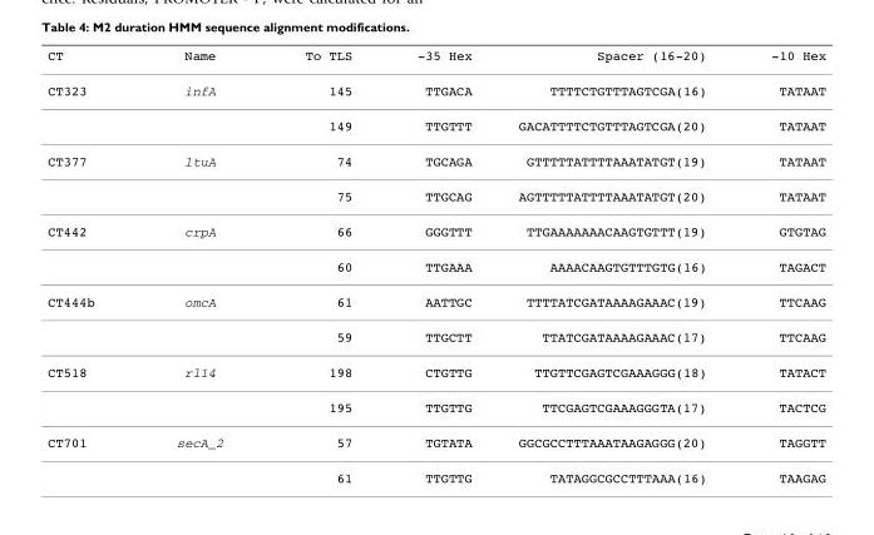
<table><thead><tr><td>CT</td><td>Name</td><td>To TLS</td><td>-35 Hex</td><td>Spacer (16-20)</td><td>-10 Hex</td></tr></thead><tbody><tr><td rowspan="2">CT323</td><td>infA</td><td>145</td><td>TTGACA</td><td>TTTTCTGTTTAGTCGA(16)</td><td>TATAAT</td></tr><tr><td></td><td>149</td><td>TTGTTT</td><td>GACATTTTCTGTTTAGTCGA(20)</td><td>TATAAT</td></tr><tr><td rowspan="2">CT377</td><td>ltuA</td><td>74</td><td>TGCAGA</td><td>GTTTTTATTTTAAATATGT(19)</td><td>TATAAT</td></tr><tr><td></td><td>75</td><td>TTGCAG</td><td>AGTTTTTATTTTAAATATGT(20)</td><td>TATAAT</td></tr><tr><td rowspan="2">CT442</td><td>crpA</td><td>66</td><td>GGGTTT</td><td>TTGAAAAAAACAAGTGTTT(19)</td><td>GTGTAG</td></tr><tr><td></td><td>60</td><td>TTGAAA</td><td>AAAACAAGTGTTTGTG(16)</td><td>TAGACT</td></tr><tr><td rowspan="2">CT444b</td><td>omcA</td><td>61</td><td>AATTGC</td><td>TTTTATCGATAAAAGAAAC(19)</td><td>TTCAAG</td></tr><tr><td></td><td>59</td><td>TTGCTT</td><td>TTATCGATAAAAGAAAC(17)</td><td>TTCAAG</td></tr><tr><td rowspan="2">CT518</td><td>rl14</td><td>198</td><td>CTGTTG</td><td>TTGTTCGAGTCGAAAGGG(18)</td><td>TATACT</td></tr><tr><td></td><td>195</td><td>TTGTTG</td><td>TTCGAGTCGAAAGGGTA(17)</td><td>TACTCG</td></tr><tr><td rowspan="2">CT701</td><td>secA_2</td><td>57</td><td>TGTATA</td><td>GGCGCCTTTAAATAAGAGGG(20)</td><td>TAGGTT</td></tr><tr><td></td><td>61</td><td>TTGTTG</td><td>TATAGGCGCCTTTAAA(16)</td><td>TAAGAG</td></tr></tbody></table>